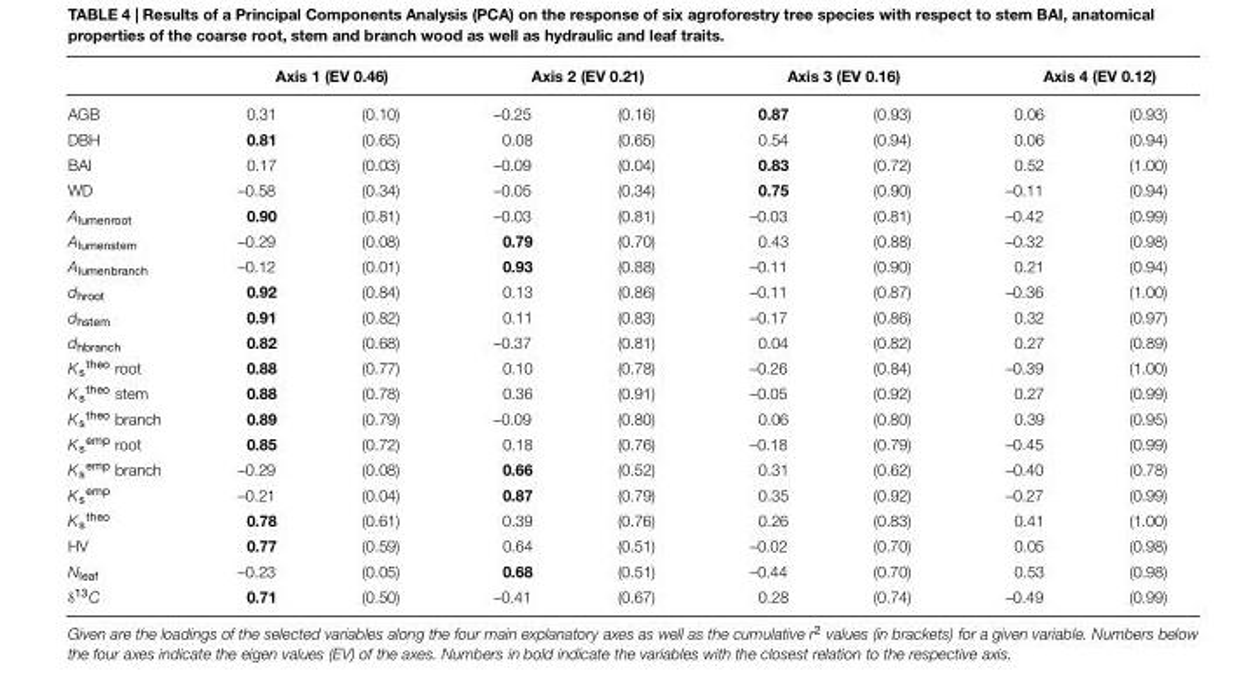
<table><thead><tr><td rowspan="2">AGB</td><td colspan="2">Axis 1 (EV 0.46)</td><td colspan="2">Axis 2 (EV 0.21)</td><td colspan="2">Axis 3 (EV 0.16)</td><td colspan="2">Axis 4 (EV 0.12)</td></tr><tr><td>0.31</td><td>(0.10)</td><td>–0.25</td><td>(0.16)</td><td>0.87</td><td>(0.93)</td><td>0.06</td><td>(0.93)</td></tr></thead><tbody><tr><td>DBH</td><td>0.81</td><td>(0.65)</td><td>0.08</td><td>(0.65)</td><td>0.54</td><td>(0.94)</td><td>0.06</td><td>(0.94)</td></tr><tr><td>BAI</td><td>0.17</td><td>(0.03)</td><td>–0.09</td><td>(0.04)</td><td>0.83</td><td>(0.72)</td><td>0.52</td><td>(1.00)</td></tr><tr><td>WD</td><td>–0.58</td><td>(0.34)</td><td>–0.05</td><td>(0.34)</td><td>0.75</td><td>(0.90)</td><td>–0.11</td><td>(0.94)</td></tr><tr><td>A<sub>lumenroot</sub></td><td>0.90</td><td>(0.81)</td><td>–0.03</td><td>(0.81)</td><td>–0.03</td><td>(0.81)</td><td>–0.42</td><td>(0.99)</td></tr><tr><td>A<sub>lumenstem</sub></td><td>–0.29</td><td>(0.08)</td><td>0.79</td><td>(0.70)</td><td>0.43</td><td>(0.88)</td><td>–0.32</td><td>(0.98)</td></tr><tr><td>A<sub>lumenbranch</sub></td><td>–0.12</td><td>(0.01)</td><td>0.93</td><td>(0.88)</td><td>–0.11</td><td>(0.90)</td><td>0.21</td><td>(0.94)</td></tr><tr><td>d<sub>hroot</sub></td><td>0.92</td><td>(0.84)</td><td>0.13</td><td>(0.86)</td><td>–0.11</td><td>(0.87)</td><td>–0.36</td><td>(1.00)</td></tr><tr><td>d<sub>hstem</sub></td><td>0.91</td><td>(0.82)</td><td>0.11</td><td>(0.83)</td><td>–0.17</td><td>(0.86)</td><td>0.32</td><td>(0.97)</td></tr><tr><td>d<sub>hbranch</sub></td><td>0.82</td><td>(0.68)</td><td>–0.37</td><td>(0.81)</td><td>0.04</td><td>(0.82)</td><td>0.27</td><td>(0.89)</td></tr><tr><td>K<sub>s</sub><sup>theo</sup> root</td><td>0.88</td><td>(0.77)</td><td>0.10</td><td>(0.78)</td><td>–0.26</td><td>(0.84)</td><td>–0.39</td><td>(1.00)</td></tr><tr><td>K<sub>s</sub><sup>theo</sup> stem</td><td>0.88</td><td>(0.78)</td><td>0.36</td><td>(0.91)</td><td>–0.05</td><td>(0.92)</td><td>0.27</td><td>(0.99)</td></tr><tr><td>K<sub>s</sub><sup>theo</sup> branch</td><td>0.89</td><td>(0.79)</td><td>–0.09</td><td>(0.80)</td><td>0.06</td><td>(0.80)</td><td>0.39</td><td>(0.95)</td></tr><tr><td>K<sub>s</sub><sup>emp</sup> root</td><td>0.85</td><td>(0.72)</td><td>0.18</td><td>(0.76)</td><td>–0.18</td><td>(0.79)</td><td>–0.45</td><td>(0.99)</td></tr><tr><td>K<sub>s</sub><sup>emp</sup> branch</td><td>–0.29</td><td>(0.08)</td><td>0.66</td><td>(0.52)</td><td>0.31</td><td>(0.62)</td><td>–0.40</td><td>(0.78)</td></tr><tr><td>K<sub>s</sub><sup>emp</sup></td><td>–0.21</td><td>(0.04)</td><td>0.87</td><td>(0.79)</td><td>0.35</td><td>(0.92)</td><td>–0.27</td><td>(0.99)</td></tr><tr><td>K<sub>s</sub><sup>theo</sup></td><td>0.78</td><td>(0.61)</td><td>0.39</td><td>(0.76)</td><td>0.26</td><td>(0.83)</td><td>0.41</td><td>(1.00)</td></tr><tr><td>HV</td><td>0.77</td><td>(0.59)</td><td>0.64</td><td>(0.51)</td><td>–0.02</td><td>(0.70)</td><td>0.05</td><td>(0.98)</td></tr><tr><td>N<sub>leaf</sub></td><td>–0.23</td><td>(0.05)</td><td>0.68</td><td>(0.51)</td><td>–0.44</td><td>(0.70)</td><td>0.53</td><td>(0.98)</td></tr><tr><td>δ<sup>13</sup>C</td><td>0.71</td><td>(0.50)</td><td>–0.41</td><td>(0.67)</td><td>0.28</td><td>(0.74)</td><td>–0.49</td><td>(0.99)</td></tr></tbody></table>